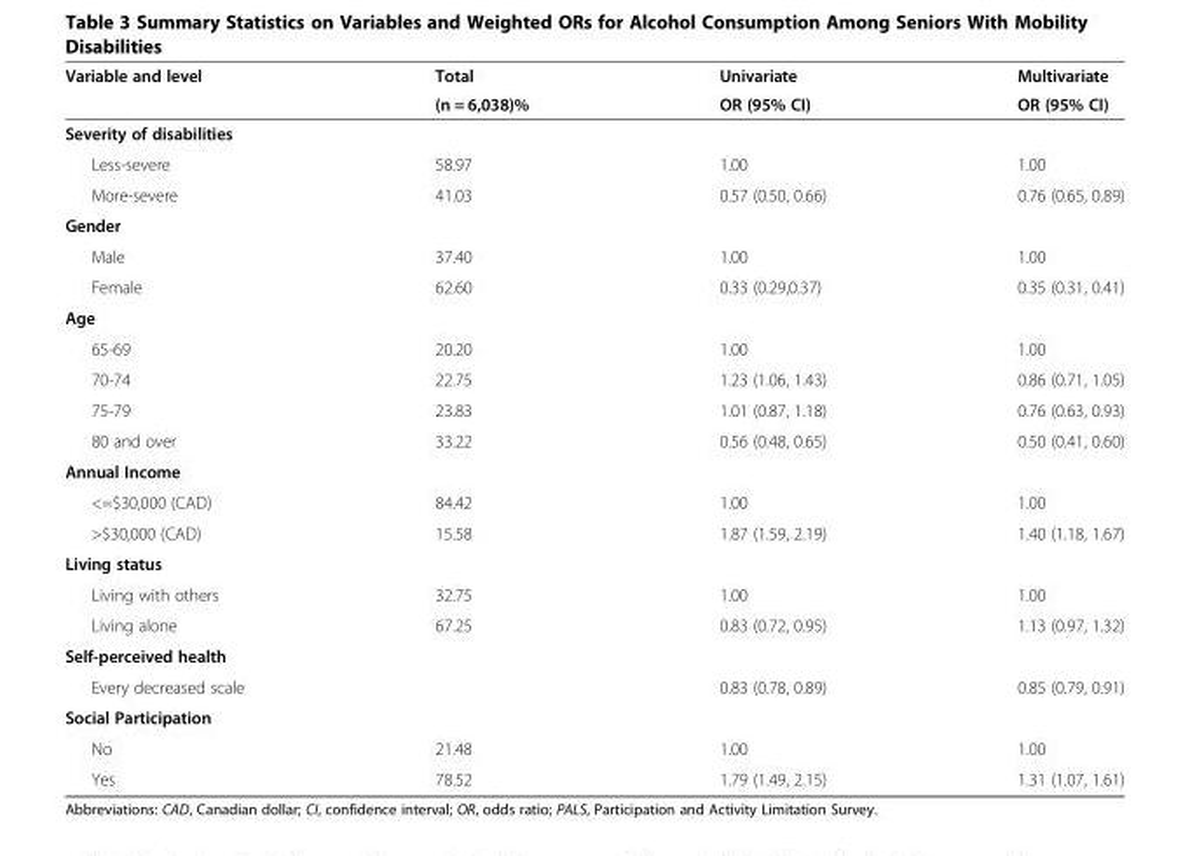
<table><thead><tr><td rowspan="2">Variable and level</td><td rowspan="2">Total (n = 6,038)%</td><td rowspan="2">Univariate OR (95% CI)</td><td rowspan="2">Multivariate OR (95% CI)</td></tr><tr></tr></thead><tbody><tr><td colspan="4">Severity of disabilities</td></tr><tr><td>Less-severe</td><td>58.97</td><td>1.00</td><td>1.00</td></tr><tr><td>More-severe</td><td>41.03</td><td>0.57 (0.50, 0.66)</td><td>0.76 (0.65, 0.89)</td></tr><tr><td colspan="4">Gender</td></tr><tr><td>Male</td><td>37.40</td><td>1.00</td><td>1.00</td></tr><tr><td>Female</td><td>62.60</td><td>0.33 (0.29,0.37)</td><td>0.35 (0.31, 0.41)</td></tr><tr><td colspan="4">Age</td></tr><tr><td>65-69</td><td>20.20</td><td>1.00</td><td>1.00</td></tr><tr><td>70-74</td><td>22.75</td><td>1.23 (1.06, 1.43)</td><td>0.86 (0.71, 1.05)</td></tr><tr><td>75-79</td><td>23.83</td><td>1.01 (0.87, 1.18)</td><td>0.76 (0.63, 0.93)</td></tr><tr><td>80 and over</td><td>33.22</td><td>0.56 (0.48, 0.65)</td><td>0.50 (0.41, 0.60)</td></tr><tr><td colspan="4">Annual Income</td></tr><tr><td>&lt;=$30,000 (CAD)</td><td>84.42</td><td>1.00</td><td>1.00</td></tr><tr><td>&gt;$30,000 (CAD)</td><td>15.58</td><td>1.87 (1.59, 2.19)</td><td>1.40 (1.18, 1.67)</td></tr><tr><td colspan="4">Living status</td></tr><tr><td>Living with others</td><td>32.75</td><td>1.00</td><td>1.00</td></tr><tr><td>Living alone</td><td>67.25</td><td>0.83 (0.72, 0.95)</td><td>1.13 (0.97, 1.32)</td></tr><tr><td colspan="4">Self-perceived health</td></tr><tr><td>Every decreased scale</td><td></td><td>0.83 (0.78, 0.89)</td><td>0.85 (0.79, 0.91)</td></tr><tr><td colspan="4">Social Participation</td></tr><tr><td>No</td><td>21.48</td><td>1.00</td><td>1.00</td></tr><tr><td>Yes</td><td>78.52</td><td>1.79 (1.49, 2.15)</td><td>1.31 (1.07, 1.61)</td></tr></tbody></table>